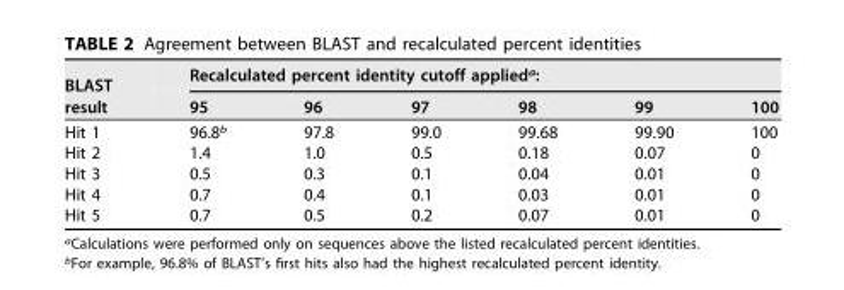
<table><thead><tr><td rowspan="2">BLAST result</td><td colspan="6">Recalculated percent identity cutoff applied<sup>a</sup>:</td></tr><tr><td>95</td><td>96</td><td>97</td><td>98</td><td>99</td><td>100</td></tr></thead><tbody><tr><td>Hit 1</td><td>96.8<sup>b</sup></td><td>97.8</td><td>99.0</td><td>99.68</td><td>99.90</td><td>100</td></tr><tr><td>Hit 2</td><td>1.4</td><td>1.0</td><td>0.5</td><td>0.18</td><td>0.07</td><td>0</td></tr><tr><td>Hit 3</td><td>0.5</td><td>0.3</td><td>0.1</td><td>0.04</td><td>0.01</td><td>0</td></tr><tr><td>Hit 4</td><td>0.7</td><td>0.4</td><td>0.1</td><td>0.03</td><td>0.01</td><td>0</td></tr><tr><td>Hit 5</td><td>0.7</td><td>0.5</td><td>0.2</td><td>0.07</td><td>0.01</td><td>0</td></tr></tbody></table>